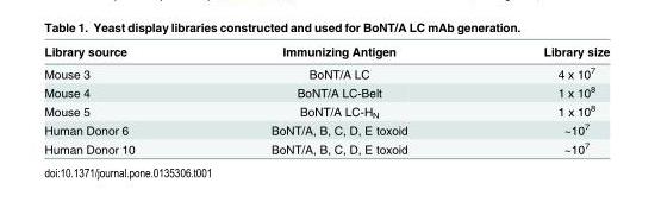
<table><thead><tr><td>Library source</td><td>Immunizing Antigen</td><td>Library size</td></tr></thead><tbody><tr><td>Mouse 3</td><td>BoNT/A LC</td><td>4 x 10<sup>7</sup></td></tr><tr><td>Mouse 4</td><td>BoNT/A LC-Belt</td><td>1 x 10<sup>8</sup></td></tr><tr><td>Mouse 5</td><td>BoNT/A LC-H<sub>N</sub></td><td>1 x 10<sup>8</sup></td></tr><tr><td>Human Donor 6</td><td>BoNT/A, B, C, D, E toxoid</td><td>~10<sup>7</sup></td></tr><tr><td>Human Donor 10</td><td>BoNT/A, B, C, D, E toxoid</td><td>~10<sup>7</sup></td></tr></tbody></table>